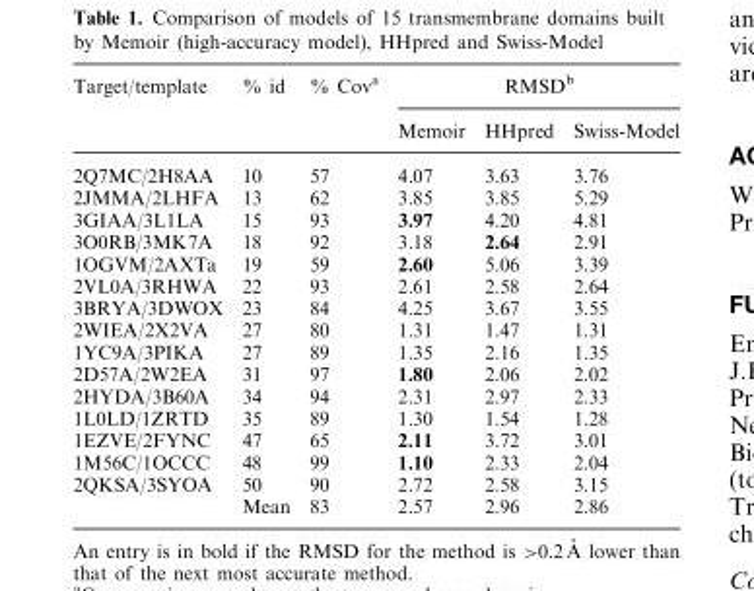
<table><thead><tr><td rowspan="2">Target/template</td><td rowspan="2">% id</td><td rowspan="2">% Cov<sup>a</sup></td><td colspan="3">RMSD<sup>b</sup></td></tr><tr><td>Memoir</td><td>HHpred</td><td>Swiss-Model</td></tr></thead><tbody><tr><td>2Q7MC/2H8AA</td><td>10</td><td>57</td><td>4.07</td><td>3.63</td><td>3.76</td></tr><tr><td>2JMMA/2LHFA</td><td>13</td><td>62</td><td>3.85</td><td>3.85</td><td>5.29</td></tr><tr><td>3GIAA/3L1LA</td><td>15</td><td>93</td><td>3.97</td><td>4.20</td><td>4.81</td></tr><tr><td>3O0RB/3MK7A</td><td>18</td><td>92</td><td>3.18</td><td>2.64</td><td>2.91</td></tr><tr><td>1OGVM/2AXTa</td><td>19</td><td>59</td><td>2.60</td><td>5.06</td><td>3.39</td></tr><tr><td>2VL0A/3RHWA</td><td>22</td><td>93</td><td>2.61</td><td>2.58</td><td>2.64</td></tr><tr><td>3BRYA/3DWOX</td><td>23</td><td>84</td><td>4.25</td><td>3.67</td><td>3.55</td></tr><tr><td>2WIEA/2X2VA</td><td>27</td><td>80</td><td>1.31</td><td>1.47</td><td>1.31</td></tr><tr><td>1YC9A/3PIKA</td><td>27</td><td>89</td><td>1.35</td><td>2.16</td><td>1.35</td></tr><tr><td>2D57A/2W2EA</td><td>31</td><td>97</td><td>1.80</td><td>2.06</td><td>2.02</td></tr><tr><td>2HYDA/3B60A</td><td>34</td><td>94</td><td>2.31</td><td>2.97</td><td>2.33</td></tr><tr><td>1L0LD/1ZRTD</td><td>35</td><td>89</td><td>1.30</td><td>1.54</td><td>1.28</td></tr><tr><td>1EZVE/2FYNC</td><td>47</td><td>65</td><td>2.11</td><td>3.72</td><td>3.01</td></tr><tr><td>1M56C/1OCCC</td><td>48</td><td>99</td><td>1.10</td><td>2.33</td><td>2.04</td></tr><tr><td rowspan="2">2QKSA/3SYOA</td><td>50</td><td>90</td><td>2.72</td><td>2.58</td><td>3.15</td></tr><tr><td>Mean</td><td>83</td><td>2.57</td><td>2.96</td><td>2.86</td></tr></tbody></table>